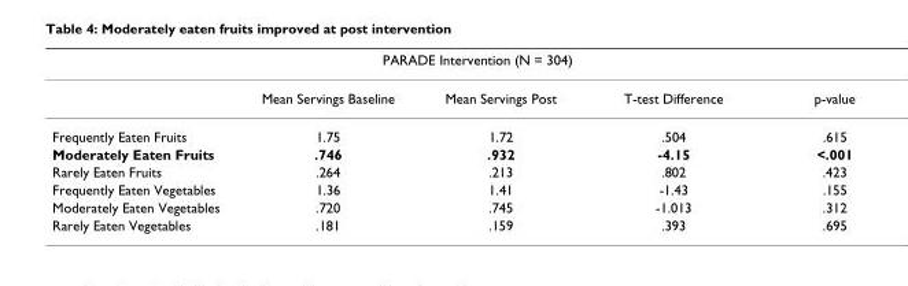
<table><thead><tr><td colspan="5">PARADE Intervention (N = 304)</td></tr><tr><td></td><td>Mean Servings Baseline</td><td>Mean Servings Post</td><td>T-test Difference</td><td>p-value</td></tr></thead><tbody><tr><td>Frequently Eaten Fruits</td><td>1.75</td><td>1.72</td><td>.504</td><td>.615</td></tr><tr><td>Moderately Eaten Fruits</td><td>.746</td><td>.932</td><td>-4.15</td><td>&lt;.001</td></tr><tr><td>Rarely Eaten Fruits</td><td>.264</td><td>.213</td><td>.802</td><td>.423</td></tr><tr><td>Frequently Eaten Vegetables</td><td>1.36</td><td>1.41</td><td>-1.43</td><td>.155</td></tr><tr><td>Moderately Eaten Vegetables</td><td>.720</td><td>.745</td><td>-1.013</td><td>.312</td></tr><tr><td>Rarely Eaten Vegetables</td><td>.181</td><td>.159</td><td>.393</td><td>.695</td></tr></tbody></table>